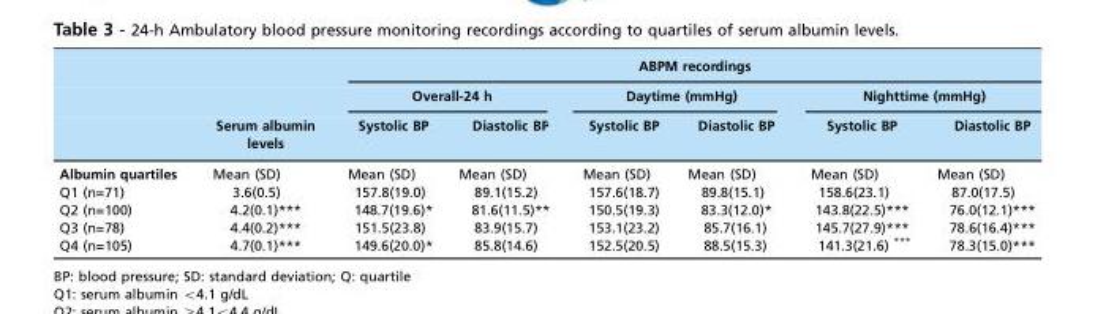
<table><thead><tr><td rowspan="3"></td><td rowspan="3">Serum albumin levels</td><td colspan="6">ABPM recordings</td></tr><tr><td colspan="2">Overall-24 h</td><td colspan="2">Daytime (mmHg)</td><td colspan="2">Nighttime (mmHg)</td></tr><tr><td>Systolic BP</td><td>Diastolic BP</td><td>Systolic BP</td><td>Diastolic BP</td><td>Systolic BP</td><td>Diastolic BP</td></tr></thead><tbody><tr><td>Albumin quartiles</td><td>Mean (SD)</td><td>Mean (SD)</td><td>Mean (SD)</td><td>Mean (SD)</td><td>Mean (SD)</td><td>Mean (SD)</td><td>Mean (SD)</td></tr><tr><td>Q1 (n=71)</td><td>3.6(0.5)</td><td>157.8(19.0)</td><td>89.1(15.2)</td><td>157.6(18.7)</td><td>89.8(15.1)</td><td>158.6(23.1)</td><td>87.0(17.5)</td></tr><tr><td>Q2 (n=100)</td><td>4.2(0.1)***</td><td>148.7(19.6)*</td><td>81.6(11.5)**</td><td>150.5(19.3)</td><td>83.3(12.0)*</td><td>143.8(22.5)***</td><td>76.0(12.1)***</td></tr><tr><td>Q3 (n=78)</td><td>4.4(0.2)***</td><td>151.5(23.8)</td><td>83.9(15.7)</td><td>153.1(23.2)</td><td>85.7(16.1)</td><td>145.7(27.9)***</td><td>78.6(16.4)***</td></tr><tr><td>Q4 (n=105)</td><td>4.7(0.1)***</td><td>149.6(20.0)*</td><td>85.8(14.6)</td><td>152.5(20.5)</td><td>88.5(15.3)</td><td>141.3(21.6) ***</td><td>78.3(15.0)***</td></tr></tbody></table>